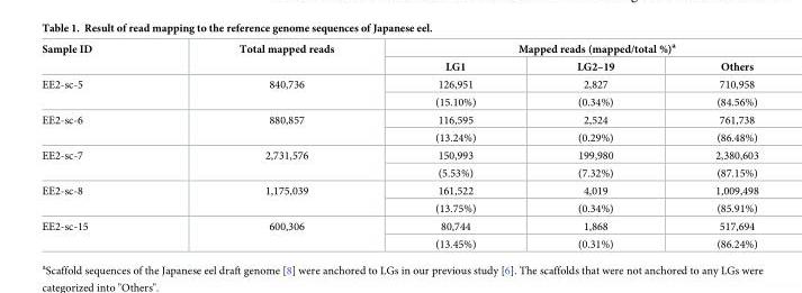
<table><thead><tr><td rowspan="2">Sample ID</td><td rowspan="2">Total mapped reads</td><td colspan="3">Mapped reads (mapped/total %)<sup>a</sup></td></tr><tr><td>LG1</td><td>LG2–19</td><td>Others</td></tr></thead><tbody><tr><td rowspan="2">EE2-sc-5</td><td rowspan="2">840,736</td><td>126,951</td><td>2,827</td><td>710,958</td></tr><tr><td>(15.10%)</td><td>(0.34%)</td><td>(84.56%)</td></tr><tr><td rowspan="2">EE2-sc-6</td><td rowspan="2">880,857</td><td>116,595</td><td>2,524</td><td>761,738</td></tr><tr><td>(13.24%)</td><td>(0.29%)</td><td>(86.48%)</td></tr><tr><td rowspan="2">EE2-sc-7</td><td rowspan="2">2,731,576</td><td>150,993</td><td>199,980</td><td>2,380,603</td></tr><tr><td>(5.53%)</td><td>(7.32%)</td><td>(87.15%)</td></tr><tr><td rowspan="2">EE2-sc-8</td><td rowspan="2">1,175,039</td><td>161,522</td><td>4,019</td><td>1,009,498</td></tr><tr><td>(13.75%)</td><td>(0.34%)</td><td>(85.91%)</td></tr><tr><td rowspan="2">EE2-sc-15</td><td rowspan="2">600,306</td><td>80,744</td><td>1,868</td><td>517,694</td></tr><tr><td>(13.45%)</td><td>(0.31%)</td><td>(86.24%)</td></tr></tbody></table>